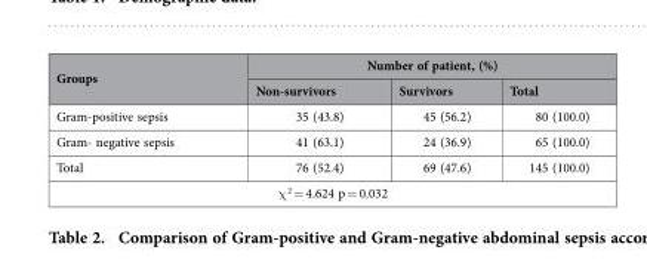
<table><thead><tr><td rowspan="2">Groups</td><td colspan="3">Number of patient, (%)</td></tr><tr><td>Non-survivors</td><td>Survivors</td><td>Total</td></tr></thead><tbody><tr><td>Gram-positive sepsis</td><td>35 (43.8)</td><td>45 (56.2)</td><td>80 (100.0)</td></tr><tr><td>Gram- negative sepsis</td><td>41 (63.1)</td><td>24 (36.9)</td><td>65 (100.0)</td></tr><tr><td>Total</td><td>76 (52.4)</td><td>69 (47.6)</td><td>145 (100.0)</td></tr><tr><td colspan="4">χ <sup>2</sup> = 4.624 p = 0.032</td></tr></tbody></table>